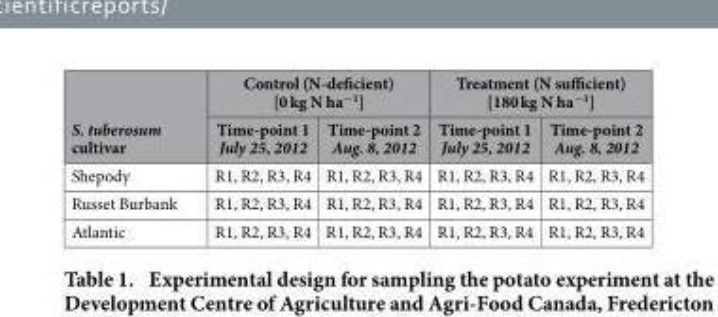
<table><thead><tr><td rowspan="2">S. tuberosum cultivar</td><td colspan="2">Control (N-deficient) [0 kg N ha<sup>−1</sup>]</td><td colspan="2">Treatment (N sufficient) [180 kg N ha<sup>−1</sup>]</td></tr><tr><td>Time-point 1 July 25, 2012</td><td>Time-point 2 Aug. 8, 2012</td><td>Time-point 1 July 25, 2012</td><td>Time-point 2 Aug. 8, 2012</td></tr></thead><tbody><tr><td>Shepody</td><td>R1, R2, R3, R4</td><td>R1, R2, R3, R4</td><td>R1, R2, R3, R4</td><td>R1, R2, R3, R4</td></tr><tr><td>Russet Burbank</td><td>R1, R2, R3, R4</td><td>R1, R2, R3, R4</td><td>R1, R2, R3, R4</td><td>R1, R2, R3, R4</td></tr><tr><td>Atlantic</td><td>R1, R2, R3, R4</td><td>R1, R2, R3, R4</td><td>R1, R2, R3, R4</td><td>R1, R2, R3, R4</td></tr></tbody></table>